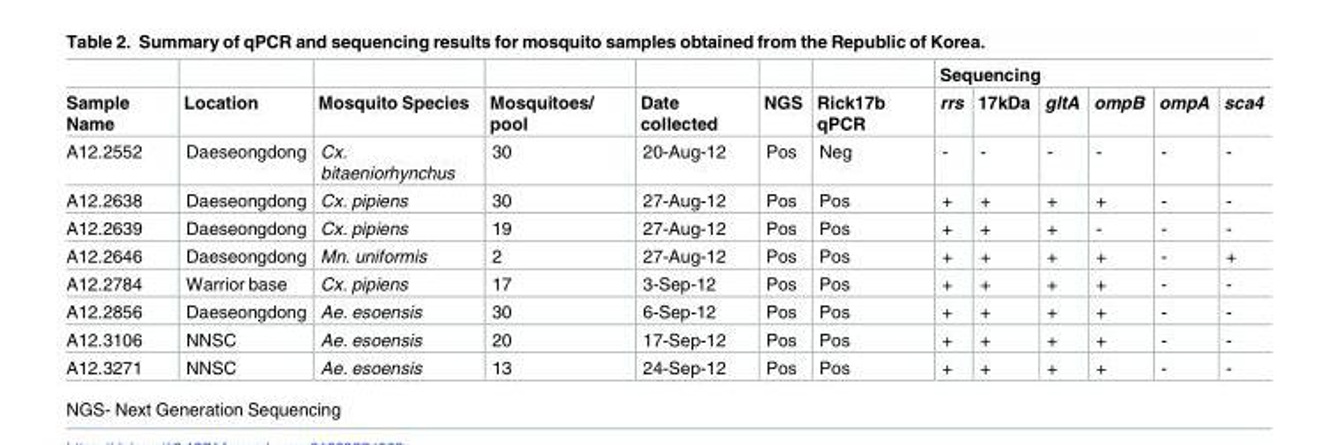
<table><thead><tr><td rowspan="2">Sample Name</td><td rowspan="2">Location</td><td rowspan="2">Mosquito Species</td><td rowspan="2">Mosquitoes/ pool</td><td rowspan="2">Date collected</td><td rowspan="2">NGS</td><td rowspan="2">Rick17b qPCR</td><td colspan="6">Sequencing</td></tr><tr><td>rrs</td><td>17kDa</td><td>gltA</td><td>ompB</td><td>ompA</td><td>sca4</td></tr></thead><tbody><tr><td>A12.2552</td><td>Daeseongdong</td><td>Cx. bitaeniorhynchus</td><td>30</td><td>20-Aug-12</td><td>Pos</td><td>Neg</td><td>-</td><td>-</td><td>-</td><td>-</td><td>-</td><td>-</td></tr><tr><td>A12.2638</td><td>Daeseongdong</td><td>Cx. pipiens</td><td>30</td><td>27-Aug-12</td><td>Pos</td><td>Pos</td><td>+</td><td>+</td><td>+</td><td>+</td><td>-</td><td>-</td></tr><tr><td>A12.2639</td><td>Daeseongdong</td><td>Cx. pipiens</td><td>19</td><td>27-Aug-12</td><td>Pos</td><td>Pos</td><td>+</td><td>+</td><td>+</td><td>-</td><td>-</td><td>-</td></tr><tr><td>A12.2646</td><td>Daeseongdong</td><td>Mn. uniformis</td><td>2</td><td>27-Aug-12</td><td>Pos</td><td>Pos</td><td>+</td><td>+</td><td>+</td><td>+</td><td>-</td><td>+</td></tr><tr><td>A12.2784</td><td>Warrior base</td><td>Cx. pipiens</td><td>17</td><td>3-Sep-12</td><td>Pos</td><td>Pos</td><td>+</td><td>+</td><td>+</td><td>+</td><td>-</td><td>-</td></tr><tr><td>A12.2856</td><td>Daeseongdong</td><td>Ae. esoensis</td><td>30</td><td>6-Sep-12</td><td>Pos</td><td>Pos</td><td>+</td><td>+</td><td>+</td><td>+</td><td>-</td><td>-</td></tr><tr><td>A12.3106</td><td>NNSC</td><td>Ae. esoensis</td><td>20</td><td>17-Sep-12</td><td>Pos</td><td>Pos</td><td>+</td><td>+</td><td>+</td><td>+</td><td>-</td><td>-</td></tr><tr><td>A12.3271</td><td>NNSC</td><td>Ae. esoensis</td><td>13</td><td>24-Sep-12</td><td>Pos</td><td>Pos</td><td>+</td><td>+</td><td>+</td><td>+</td><td>-</td><td>-</td></tr></tbody></table>